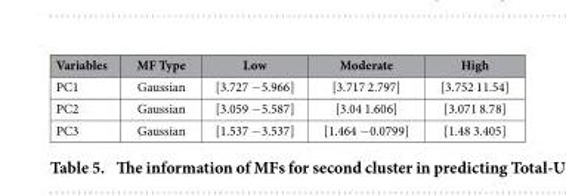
<table><thead><tr><td>Variables</td><td>MF Type</td><td>Low</td><td>Moderate</td><td>High</td></tr></thead><tbody><tr><td>PC1</td><td>Gaussian</td><td>[3.727 − 5.966]</td><td>[3.717 2.797]</td><td>[3.752 11.54]</td></tr><tr><td>PC2</td><td>Gaussian</td><td>[3.059 − 5.587]</td><td>[3.04 1.606]</td><td>[3.071 8.78]</td></tr><tr><td>PC3</td><td>Gaussian</td><td>[1.537 − 3.537]</td><td>[1.464 − 0.0799]</td><td>[1.48 3.405]</td></tr></tbody></table>